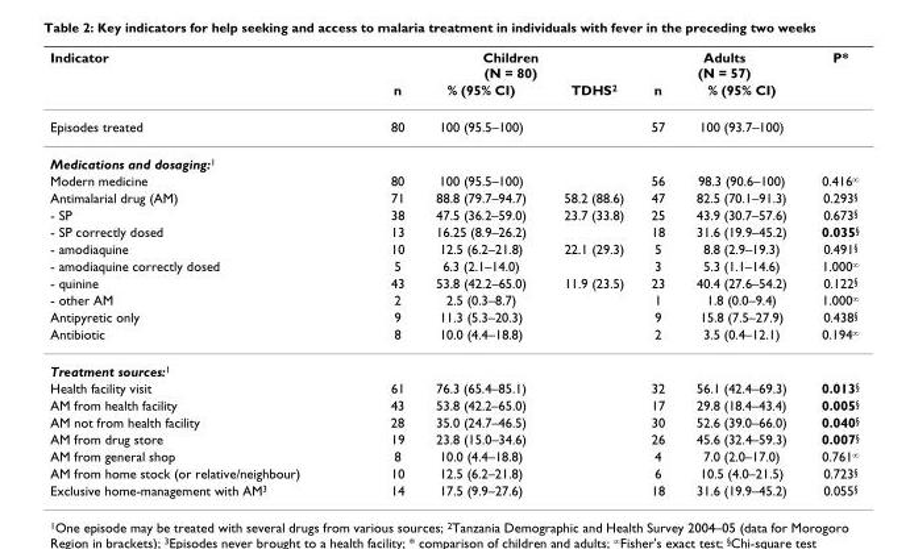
<table><thead><tr><td rowspan="2">Indicator</td><td colspan="3">Children (N = 80)</td><td colspan="2">Adults (N = 57)</td><td rowspan="2">P*</td></tr><tr><td>n</td><td>% (95% CI)</td><td>TDHS<sup>2</sup></td><td>n</td><td>% (95% CI)</td></tr></thead><tbody><tr><td>Episodes treated</td><td>80</td><td>100 (95.5–100)</td><td></td><td>57</td><td>100 (93.7–100)</td><td></td></tr><tr><td colspan="7">Medications and dosaging:<sup>1</sup></td></tr><tr><td>Modern medicine</td><td>80</td><td>100 (95.5–100)</td><td></td><td>56</td><td>98.3 (90.6–100)</td><td>0.416<sup>∞</sup></td></tr><tr><td>Antimalarial drug (AM)</td><td>71</td><td>88.8 (79.7–94.7)</td><td>58.2 (88.6)</td><td>47</td><td>82.5 (70.1–91.3)</td><td>0.293<sup>§</sup></td></tr><tr><td>- SP</td><td>38</td><td>47.5 (36.2–59.0)</td><td>23.7 (33.8)</td><td>25</td><td>43.9 (30.7–57.6)</td><td>0.673<sup>§</sup></td></tr><tr><td>- SP correctly dosed</td><td>13</td><td>16.25 (8.9–26.2)</td><td></td><td>18</td><td>31.6 (19.9–45.2)</td><td>0.035<sup>§</sup></td></tr><tr><td>- amodiaquine</td><td>10</td><td>12.5 (6.2–21.8)</td><td>22.1 (29.3)</td><td>5</td><td>8.8 (2.9–19.3)</td><td>0.491<sup>§</sup></td></tr><tr><td>- amodiaquine correctly dosed</td><td>5</td><td>6.3 (2.1–14.0)</td><td></td><td>3</td><td>5.3 (1.1–14.6)</td><td>1.000<sup>∞</sup></td></tr><tr><td>- quinine</td><td>43</td><td>53.8 (42.2–65.0)</td><td>11.9 (23.5)</td><td>23</td><td>40.4 (27.6–54.2)</td><td>0.122<sup>§</sup></td></tr><tr><td>- other AM</td><td>2</td><td>2.5 (0.3–8.7)</td><td></td><td>1</td><td>1.8 (0.0–9.4)</td><td>1.000<sup>∞</sup></td></tr><tr><td>Antipyretic only</td><td>9</td><td>11.3 (5.3–20.3)</td><td></td><td>9</td><td>15.8 (7.5–27.9)</td><td>0.438<sup>§</sup></td></tr><tr><td>Antibiotic</td><td>8</td><td>10.0 (4.4–18.8)</td><td></td><td>2</td><td>3.5 (0.4–12.1)</td><td>0.194<sup>∞</sup></td></tr><tr><td colspan="7">Treatment sources:<sup>1</sup></td></tr><tr><td>Health facility visit</td><td>61</td><td>76.3 (65.4–85.1)</td><td></td><td>32</td><td>56.1 (42.4–69.3)</td><td>0.013<sup>§</sup></td></tr><tr><td>AM from health facility</td><td>43</td><td>53.8 (42.2–65.0)</td><td></td><td>17</td><td>29.8 (18.4–43.4)</td><td>0.005<sup>§</sup></td></tr><tr><td>AM not from health facility</td><td>28</td><td>35.0 (24.7–46.5)</td><td></td><td>30</td><td>52.6 (39.0–66.0)</td><td>0.040<sup>§</sup></td></tr><tr><td>AM from drug store</td><td>19</td><td>23.8 (15.0–34.6)</td><td></td><td>26</td><td>45.6 (32.4–59.3)</td><td>0.007<sup>§</sup></td></tr><tr><td>AM from general shop</td><td>8</td><td>10.0 (4.4–18.8)</td><td></td><td>4</td><td>7.0 (2.0–17.0)</td><td>0.761<sup>∞</sup></td></tr><tr><td>AM from home stock (or relative/neighbour)</td><td>10</td><td>12.5 (6.2–21.8)</td><td></td><td>6</td><td>10.5 (4.0–21.5)</td><td>0.723<sup>§</sup></td></tr><tr><td>Exclusive home-management with AM<sup>3</sup></td><td>14</td><td>17.5 (9.9–27.6)</td><td></td><td>18</td><td>31.6 (19.9–45.2)</td><td>0.055<sup>§</sup></td></tr></tbody></table>